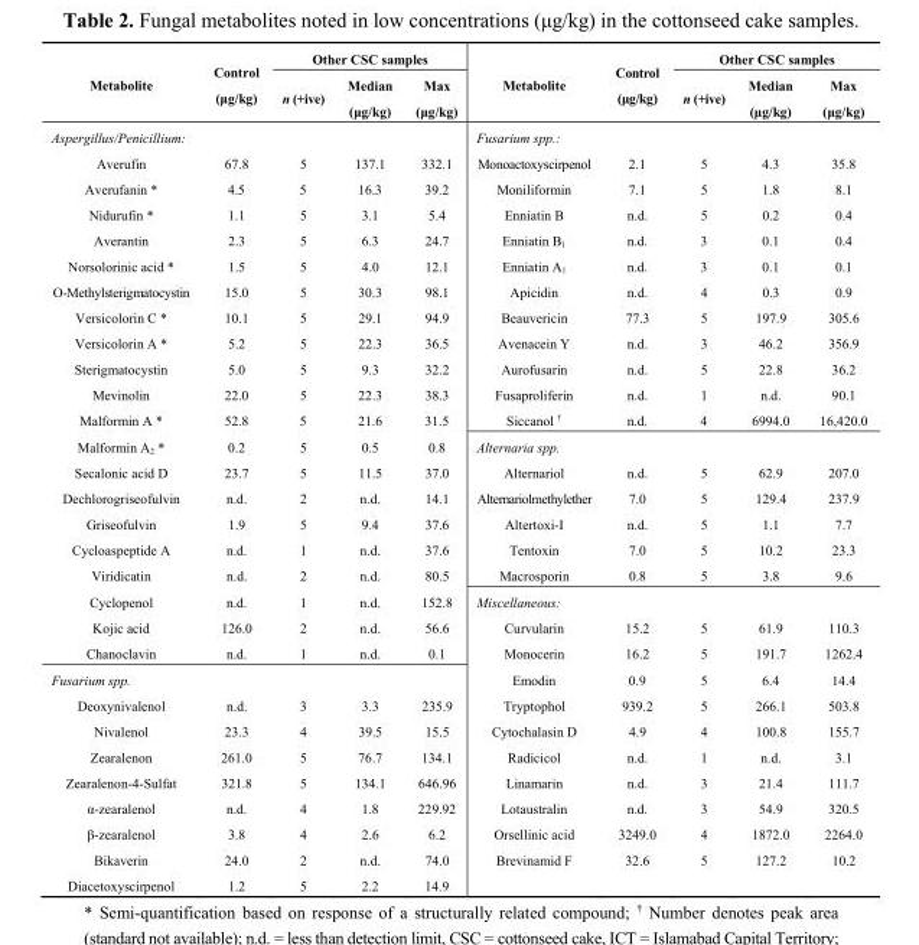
<table><thead><tr><td rowspan="2">Metabolite</td><td rowspan="2">Control (μg/kg)</td><td colspan="3">Other CSC samples</td><td rowspan="2">Metabolite</td><td rowspan="2">Control (μg/kg)</td><td colspan="3">Other CSC samples</td></tr><tr><td>n (+ive)</td><td>Median (μg/kg)</td><td>Max (μg/kg)</td><td>n (+ive)</td><td>Median (μg/kg)</td><td>Max (μg/kg)</td></tr></thead><tbody><tr><td colspan="5">Aspergillus/Penicillium:</td><td colspan="5">Fusarium spp.:</td></tr><tr><td>Averufin</td><td>67.8</td><td>5</td><td>137.1</td><td>332.1</td><td>Monoactoxyscirpenol</td><td>2.1</td><td>5</td><td>4.3</td><td>35.8</td></tr><tr><td>Averufanin *</td><td>4.5</td><td>5</td><td>16.3</td><td>39.2</td><td>Moniliformin</td><td>7.1</td><td>5</td><td>1.8</td><td>8.1</td></tr><tr><td>Nidurufin *</td><td>1.1</td><td>5</td><td>3.1</td><td>5.4</td><td>Enniatin B</td><td>n.d.</td><td>5</td><td>0.2</td><td>0.4</td></tr><tr><td>Averantin</td><td>2.3</td><td>5</td><td>6.3</td><td>24.7</td><td>Enniatin B<sub>1</sub></td><td>n.d.</td><td>3</td><td>0.1</td><td>0.4</td></tr><tr><td>Norsolorinic acid *</td><td>1.5</td><td>5</td><td>4.0</td><td>12.1</td><td>Enniatin A<sub>1</sub></td><td>n.d.</td><td>3</td><td>0.1</td><td>0.1</td></tr><tr><td>O-Methylsterigmatocystin</td><td>15.0</td><td>5</td><td>30.3</td><td>98.1</td><td>Apicidin</td><td>n.d.</td><td>4</td><td>0.3</td><td>0.9</td></tr><tr><td>Versicolorin C *</td><td>10.1</td><td>5</td><td>29.1</td><td>94.9</td><td>Beauvericin</td><td>77.3</td><td>5</td><td>197.9</td><td>305.6</td></tr><tr><td>Versicolorin A *</td><td>5.2</td><td>5</td><td>22.3</td><td>36.5</td><td>Avenacein Y</td><td>n.d.</td><td>3</td><td>46.2</td><td>356.9</td></tr><tr><td>Sterigmatocystin</td><td>5.0</td><td>5</td><td>9.3</td><td>32.2</td><td>Aurofusarin</td><td>n.d.</td><td>5</td><td>22.8</td><td>36.2</td></tr><tr><td>Mevinolin</td><td>22.0</td><td>5</td><td>22.3</td><td>38.3</td><td>Fusaproliferin</td><td>n.d.</td><td>1</td><td>n.d.</td><td>90.1</td></tr><tr><td>Malformin A *</td><td>52.8</td><td>5</td><td>21.6</td><td>31.5</td><td>Siccanol <sup>†</sup></td><td>n.d.</td><td>4</td><td>6994.0</td><td>16,420.0</td></tr><tr><td>Malformin A<sub>2</sub> *</td><td>0.2</td><td>5</td><td>0.5</td><td>0.8</td><td colspan="5">Alternaria spp.</td></tr><tr><td>Secalonic acid D</td><td>23.7</td><td>5</td><td>11.5</td><td>37.0</td><td>Alternariol</td><td>n.d.</td><td>5</td><td>62.9</td><td>207.0</td></tr><tr><td>Dechlorogriseofulvin</td><td>n.d.</td><td>2</td><td>n.d.</td><td>14.1</td><td>Alternariolmethylether</td><td>7.0</td><td>5</td><td>129.4</td><td>237.9</td></tr><tr><td>Griseofulvin</td><td>1.9</td><td>5</td><td>9.4</td><td>37.6</td><td>Altertoxi-I</td><td>n.d.</td><td>5</td><td>1.1</td><td>7.7</td></tr><tr><td>Cycloaspeptide A</td><td>n.d.</td><td>1</td><td>n.d.</td><td>37.6</td><td>Tentoxin</td><td>7.0</td><td>5</td><td>10.2</td><td>23.3</td></tr><tr><td>Viridicatin</td><td>n.d.</td><td>2</td><td>n.d.</td><td>80.5</td><td>Macrosporin</td><td>0.8</td><td>5</td><td>3.8</td><td>9.6</td></tr><tr><td>Cyclopenol</td><td>n.d.</td><td>1</td><td>n.d.</td><td>152.8</td><td colspan="5">Miscellaneous:</td></tr><tr><td>Kojic acid</td><td>126.0</td><td>2</td><td>n.d.</td><td>56.6</td><td>Curvularin</td><td>15.2</td><td>5</td><td>61.9</td><td>110.3</td></tr><tr><td>Chanoclavin</td><td>n.d.</td><td>1</td><td>n.d.</td><td>0.1</td><td>Monocerin</td><td>16.2</td><td>5</td><td>191.7</td><td>1262.4</td></tr><tr><td colspan="5">Fusarium spp.</td><td>Emodin</td><td>0.9</td><td>5</td><td>6.4</td><td>14.4</td></tr><tr><td>Deoxynivalenol</td><td>n.d.</td><td>3</td><td>3.3</td><td>235.9</td><td>Tryptophol</td><td>939.2</td><td>5</td><td>266.1</td><td>503.8</td></tr><tr><td>Nivalenol</td><td>23.3</td><td>4</td><td>39.5</td><td>15.5</td><td>Cytochalasin D</td><td>4.9</td><td>4</td><td>100.8</td><td>155.7</td></tr><tr><td>Zearalenon</td><td>261.0</td><td>5</td><td>76.7</td><td>134.1</td><td>Radicicol</td><td>n.d.</td><td>1</td><td>n.d.</td><td>3.1</td></tr><tr><td>Zearalenon-4-Sulfat</td><td>321.8</td><td>5</td><td>134.1</td><td>646.96</td><td>Linamarin</td><td>n.d.</td><td>3</td><td>21.4</td><td>111.7</td></tr><tr><td>α-zearalenol</td><td>n.d.</td><td>4</td><td>1.8</td><td>229.92</td><td>Lotaustralin</td><td>n.d.</td><td>3</td><td>54.9</td><td>320.5</td></tr><tr><td>β-zearalenol</td><td>3.8</td><td>4</td><td>2.6</td><td>6.2</td><td>Orsellinic acid</td><td>3249.0</td><td>4</td><td>1872.0</td><td>2264.0</td></tr><tr><td>Bikaverin</td><td>24.0</td><td>2</td><td>n.d.</td><td>74.0</td><td>Brevinamid F</td><td>32.6</td><td>5</td><td>127.2</td><td>10.2</td></tr><tr><td>Diacetoxyscirpenol</td><td>1.2</td><td>5</td><td>2.2</td><td>14.9</td><td></td><td></td><td></td><td></td><td></td></tr></tbody></table>